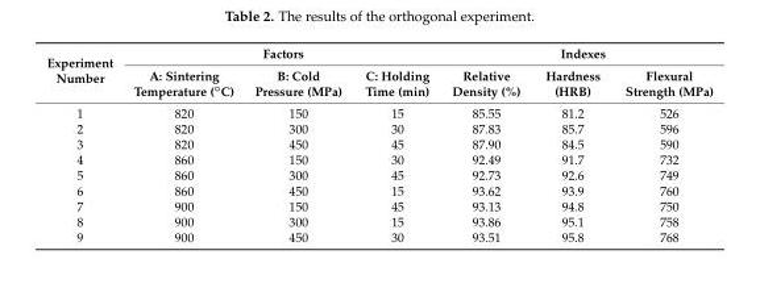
<table><thead><tr><td rowspan="2">Experiment Number</td><td colspan="3">Factors</td><td colspan="3">Indexes</td></tr><tr><td>A: Sintering Temperature (◦C)</td><td>B: Cold Pressure (MPa)</td><td>C: Holding Time (min)</td><td>Relative Density (%)</td><td>Hardness (HRB)</td><td>Flexural Strength (MPa)</td></tr></thead><tbody><tr><td>1</td><td>820</td><td>150</td><td>15</td><td>85.55</td><td>81.2</td><td>526</td></tr><tr><td>2</td><td>820</td><td>300</td><td>30</td><td>87.83</td><td>85.7</td><td>596</td></tr><tr><td>3</td><td>820</td><td>450</td><td>45</td><td>87.90</td><td>84.5</td><td>590</td></tr><tr><td>4</td><td>860</td><td>150</td><td>30</td><td>92.49</td><td>91.7</td><td>732</td></tr><tr><td>5</td><td>860</td><td>300</td><td>45</td><td>92.73</td><td>92.6</td><td>749</td></tr><tr><td>6</td><td>860</td><td>450</td><td>15</td><td>93.62</td><td>93.9</td><td>760</td></tr><tr><td>7</td><td>900</td><td>150</td><td>45</td><td>93.13</td><td>94.8</td><td>750</td></tr><tr><td>8</td><td>900</td><td>300</td><td>15</td><td>93.86</td><td>95.1</td><td>758</td></tr><tr><td>9</td><td>900</td><td>450</td><td>30</td><td>93.51</td><td>95.8</td><td>768</td></tr></tbody></table>